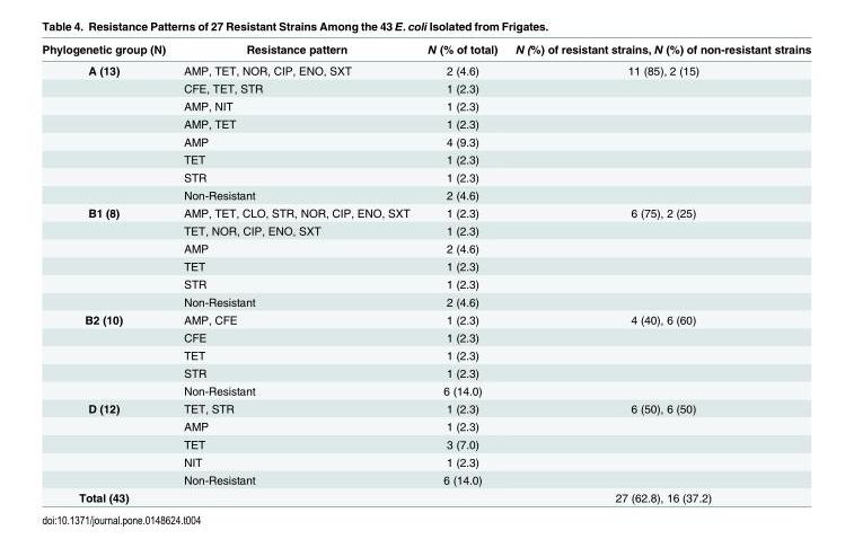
<table><thead><tr><td>Phylogenetic group (N)</td><td>Resistance pattern</td><td>N (% of total)</td><td>N (%) of resistant strains, N (%) of non-resistant strains</td></tr></thead><tbody><tr><td rowspan="8">A (13)</td><td>AMP, TET, NOR, CIP, ENO, SXT</td><td>2 (4.6)</td><td>11 (85), 2 (15)</td></tr><tr><td>CFE, TET, STR</td><td>1 (2.3)</td><td></td></tr><tr><td>AMP, NIT</td><td>1 (2.3)</td><td></td></tr><tr><td>AMP, TET</td><td>1 (2.3)</td><td></td></tr><tr><td>AMP</td><td>4 (9.3)</td><td></td></tr><tr><td>TET</td><td>1 (2.3)</td><td></td></tr><tr><td>STR</td><td>1 (2.3)</td><td></td></tr><tr><td>Non-Resistant</td><td>2 (4.6)</td><td></td></tr><tr><td rowspan="6">B1 (8)</td><td>AMP, TET, CLO, STR, NOR, CIP, ENO, SXT</td><td>1 (2.3)</td><td>6 (75), 2 (25)</td></tr><tr><td>TET, NOR, CIP, ENO, SXT</td><td>1 (2.3)</td><td></td></tr><tr><td>AMP</td><td>2 (4.6)</td><td></td></tr><tr><td>TET</td><td>1 (2.3)</td><td></td></tr><tr><td>STR</td><td>1 (2.3)</td><td></td></tr><tr><td>Non-Resistant</td><td>2 (4.6)</td><td></td></tr><tr><td rowspan="5">B2 (10)</td><td>AMP, CFE</td><td>1 (2.3)</td><td>4 (40), 6 (60)</td></tr><tr><td>CFE</td><td>1 (2.3)</td><td></td></tr><tr><td>TET</td><td>1 (2.3)</td><td></td></tr><tr><td>STR</td><td>1 (2.3)</td><td></td></tr><tr><td>Non-Resistant</td><td>6 (14.0)</td><td></td></tr><tr><td rowspan="5">D (12)</td><td>TET, STR</td><td>1 (2.3)</td><td>6 (50), 6 (50)</td></tr><tr><td>AMP</td><td>1 (2.3)</td><td></td></tr><tr><td>TET</td><td>3 (7.0)</td><td></td></tr><tr><td>NIT</td><td>1 (2.3)</td><td></td></tr><tr><td>Non-Resistant</td><td>6 (14.0)</td><td></td></tr><tr><td>Total (43)</td><td></td><td></td><td>27 (62.8), 16 (37.2)</td></tr></tbody></table>